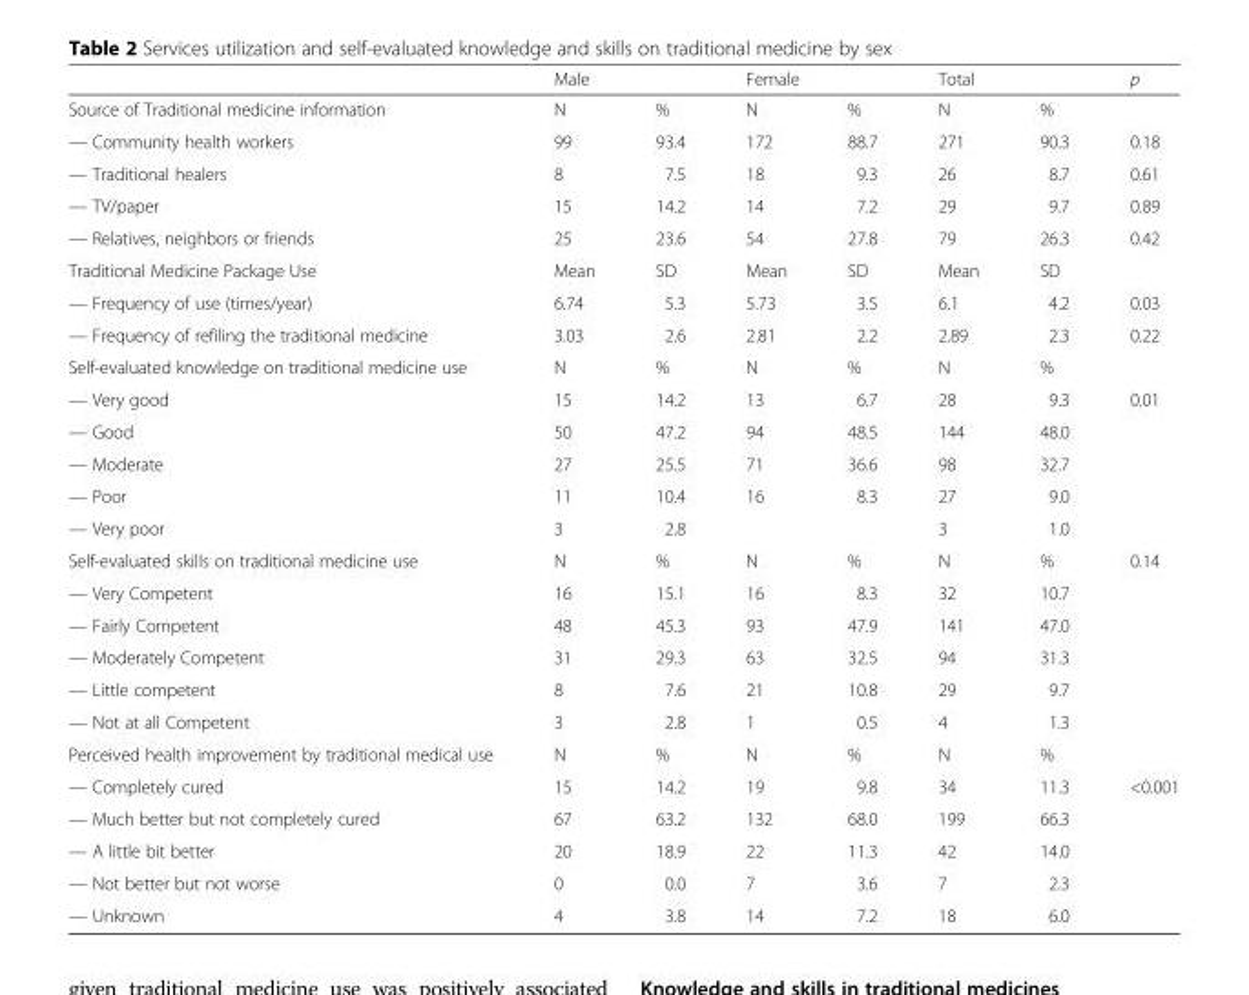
<table><thead><tr><td rowspan="2">Source of Traditional medicine information</td><td colspan="2">Male</td><td colspan="2">Female</td><td colspan="2">Total</td><td rowspan="2">p</td></tr><tr><td>N</td><td>%</td><td>N</td><td>%</td><td>N</td><td>%</td></tr></thead><tbody><tr><td>— Community health workers</td><td>99</td><td>93.4</td><td>172</td><td>88.7</td><td>271</td><td>90.3</td><td>0.18</td></tr><tr><td>— Traditional healers</td><td>8</td><td>7.5</td><td>18</td><td>9.3</td><td>26</td><td>8.7</td><td>0.61</td></tr><tr><td>— TV/paper</td><td>15</td><td>14.2</td><td>14</td><td>7.2</td><td>29</td><td>9.7</td><td>0.89</td></tr><tr><td>— Relatives, neighbors or friends</td><td>25</td><td>23.6</td><td>54</td><td>27.8</td><td>79</td><td>26.3</td><td>0.42</td></tr><tr><td>Traditional Medicine Package Use</td><td>Mean</td><td>SD</td><td>Mean</td><td>SD</td><td>Mean</td><td>SD</td><td></td></tr><tr><td>— Frequency of use (times/year)</td><td>6.74</td><td>5.3</td><td>5.73</td><td>3.5</td><td>6.1</td><td>4.2</td><td>0.03</td></tr><tr><td>— Frequency of refiling the traditional medicine</td><td>3.03</td><td>2.6</td><td>2.81</td><td>2.2</td><td>2.89</td><td>2.3</td><td>0.22</td></tr><tr><td>Self-evaluated knowledge on traditional medicine use</td><td>N</td><td>%</td><td>N</td><td>%</td><td>N</td><td>%</td><td></td></tr><tr><td>— Very good</td><td>15</td><td>14.2</td><td>13</td><td>6.7</td><td>28</td><td>9.3</td><td rowspan="5">0.01</td></tr><tr><td>— Good</td><td>50</td><td>47.2</td><td>94</td><td>48.5</td><td>144</td><td>48.0</td></tr><tr><td>— Moderate</td><td>27</td><td>25.5</td><td>71</td><td>36.6</td><td>98</td><td>32.7</td></tr><tr><td>— Poor</td><td>11</td><td>10.4</td><td>16</td><td>8.3</td><td>27</td><td>9.0</td></tr><tr><td>— Very poor</td><td>3</td><td>2.8</td><td></td><td></td><td>3</td><td>1.0</td></tr><tr><td>Self-evaluated skills on traditional medicine use</td><td>N</td><td>%</td><td>N</td><td>%</td><td>N</td><td>%</td><td rowspan="6">0.14</td></tr><tr><td>— Very Competent</td><td>16</td><td>15.1</td><td>16</td><td>8.3</td><td>32</td><td>10.7</td></tr><tr><td>— Fairly Competent</td><td>48</td><td>45.3</td><td>93</td><td>47.9</td><td>141</td><td>47.0</td></tr><tr><td>— Moderately Competent</td><td>31</td><td>29.3</td><td>63</td><td>32.5</td><td>94</td><td>31.3</td></tr><tr><td>— Little competent</td><td>8</td><td>7.6</td><td>21</td><td>10.8</td><td>29</td><td>9.7</td></tr><tr><td>— Not at all Competent</td><td>3</td><td>2.8</td><td>1</td><td>0.5</td><td>4</td><td>1.3</td></tr><tr><td>Perceived health improvement by traditional medical use</td><td>N</td><td>%</td><td>N</td><td>%</td><td>N</td><td>%</td><td></td></tr><tr><td>— Completely cured</td><td>15</td><td>14.2</td><td>19</td><td>9.8</td><td>34</td><td>11.3</td><td rowspan="5">&lt;0.001</td></tr><tr><td>— Much better but not completely cured</td><td>67</td><td>63.2</td><td>132</td><td>68.0</td><td>199</td><td>66.3</td></tr><tr><td>— A little bit better</td><td>20</td><td>18.9</td><td>22</td><td>11.3</td><td>42</td><td>14.0</td></tr><tr><td>— Not better but not worse</td><td>0</td><td>0.0</td><td>7</td><td>3.6</td><td>7</td><td>2.3</td></tr><tr><td>— Unknown</td><td>4</td><td>3.8</td><td>14</td><td>7.2</td><td>18</td><td>6.0</td></tr></tbody></table>